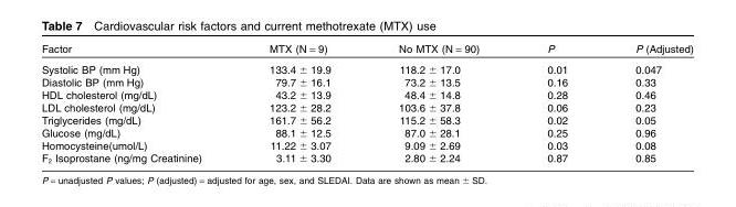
<table><thead><tr><td>Factor</td><td>MTX (N = 9)</td><td>No MTX (N = 90)</td><td>P</td><td>P (Adjusted)</td></tr></thead><tbody><tr><td>Systolic BP (mm Hg)</td><td>133.4 ± 19.9</td><td>118.2 ± 17.0</td><td>0.01</td><td>0.047</td></tr><tr><td>Diastolic BP (mm Hg)</td><td>79.7 ± 16.1</td><td>73.2 ± 13.5</td><td>0.16</td><td>0.33</td></tr><tr><td>HDL cholesterol (mg/dL)</td><td>43.2 ± 13.9</td><td>48.4 ± 14.8</td><td>0.28</td><td>0.46</td></tr><tr><td>LDL cholesterol (mg/dL)</td><td>123.2 ± 28.2</td><td>103.6 ± 37.8</td><td>0.06</td><td>0.23</td></tr><tr><td>Triglycerides (mg/dL)</td><td>161.7 ± 56.2</td><td>115.2 ± 58.3</td><td>0.02</td><td>0.05</td></tr><tr><td>Glucose (mg/dL)</td><td>88.1 ± 12.5</td><td>87.0 ± 28.1</td><td>0.25</td><td>0.96</td></tr><tr><td>Homocysteine(umol/L)</td><td>11.22 ± 3.07</td><td>9.09 ± 2.69</td><td>0.03</td><td>0.08</td></tr><tr><td>F<sub>2</sub> Isoprostane (ng/mg Creatinine)</td><td>3.11 ± 3.30</td><td>2.80 ± 2.24</td><td>0.87</td><td>0.85</td></tr></tbody></table>